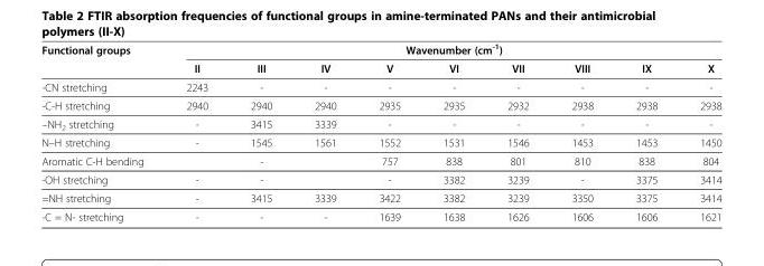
<table><thead><tr><td rowspan="2">Functional groups</td><td colspan="9">Wavenumber (cm<sup>-1</sup>)</td></tr><tr><td>II</td><td>III</td><td>IV</td><td>V</td><td>VI</td><td>VII</td><td>VIII</td><td>IX</td><td>X</td></tr></thead><tbody><tr><td>-CN stretching</td><td>2243</td><td>-</td><td>-</td><td>-</td><td>-</td><td>-</td><td>-</td><td>-</td><td>-</td></tr><tr><td>-C-H stretching</td><td>2940</td><td>2940</td><td>2940</td><td>2935</td><td>2935</td><td>2932</td><td>2938</td><td>2938</td><td>2938</td></tr><tr><td>–NH<sub>2</sub> stretching</td><td>-</td><td>3415</td><td>3339</td><td>-</td><td>-</td><td>-</td><td>-</td><td>-</td><td>-</td></tr><tr><td>N–H stretching</td><td>-</td><td>1545</td><td>1561</td><td>1552</td><td>1531</td><td>1546</td><td>1453</td><td>1453</td><td>1450</td></tr><tr><td>Aromatic C-H bending</td><td></td><td>-</td><td></td><td>757</td><td>838</td><td>801</td><td>810</td><td>838</td><td>804</td></tr><tr><td>-OH stretching</td><td>-</td><td>-</td><td></td><td>-</td><td>3382</td><td>3239</td><td>-</td><td>3375</td><td>3414</td></tr><tr><td>=NH stretching</td><td>-</td><td>3415</td><td>3339</td><td>3422</td><td>3382</td><td>3239</td><td>3350</td><td>3375</td><td>3414</td></tr><tr><td>-C = N- stretching</td><td>-</td><td>-</td><td>-</td><td>1639</td><td>1638</td><td>1626</td><td>1606</td><td>1606</td><td>1621</td></tr></tbody></table>